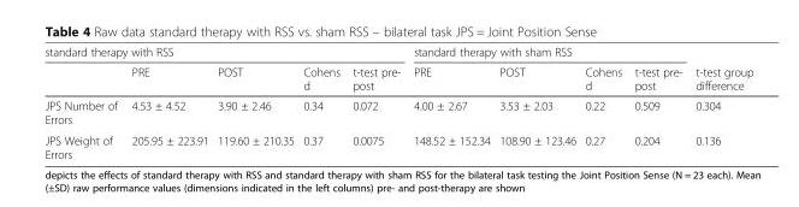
<table><thead><tr><td colspan="5">standard therapy with RSS</td><td colspan="4">standard therapy with sham RSS</td><td rowspan="2">t-test group difference</td></tr><tr><td></td><td>PRE</td><td>POST</td><td>Cohens d</td><td>t-test pre- post</td><td>PRE</td><td>POST</td><td>Cohens d</td><td>t-test pre- post</td></tr></thead><tbody><tr><td>JPS Number of Errors</td><td>4.53 ± 4.52</td><td>3.90 ± 2.46</td><td>0.34</td><td>0.072</td><td>4.00 ± 2.67</td><td>3.53 ± 2.03</td><td>0.22</td><td>0.509</td><td>0.304</td></tr><tr><td>JPS Weight of Errors</td><td>205.95 ± 223.91</td><td>119.60 ± 210.35</td><td>0.37</td><td>0.0075</td><td>148.52 ± 152.34</td><td>108.90 ± 123.46</td><td>0.27</td><td>0.204</td><td>0.136</td></tr></tbody></table>